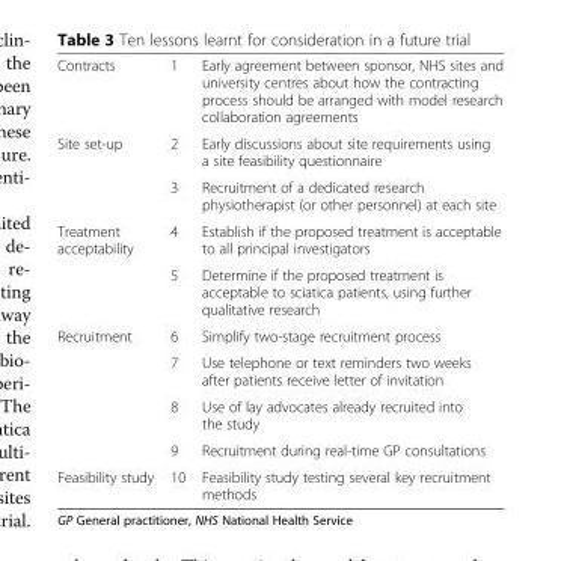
<table><tbody><tr><td>Contracts</td><td>1</td><td>Early agreement between sponsor, NHS sites and university centres about how the contracting process should be arranged with model research collaboration agreements</td></tr><tr><td rowspan="2">Site set-up</td><td>2</td><td>Early discussions about site requirements using a site feasibility questionnaire</td></tr><tr><td>3</td><td>Recruitment of a dedicated research physiotherapist (or other personnel) at each site</td></tr><tr><td rowspan="2">Treatment acceptability</td><td>4</td><td>Establish if the proposed treatment is acceptable to all principal investigators</td></tr><tr><td>5</td><td>Determine if the proposed treatment is acceptable to sciatica patients, using further qualitative research</td></tr><tr><td rowspan="4">Recruitment</td><td>6</td><td>Simplify two-stage recruitment process</td></tr><tr><td>7</td><td>Use telephone or text reminders two weeks after patients receive letter of invitation</td></tr><tr><td>8</td><td>Use of lay advocates already recruited into the study</td></tr><tr><td>9</td><td>Recruitment during real-time GP consultations</td></tr><tr><td>Feasibility study</td><td>10</td><td>Feasibility study testing several key recruitment methods</td></tr></tbody></table>